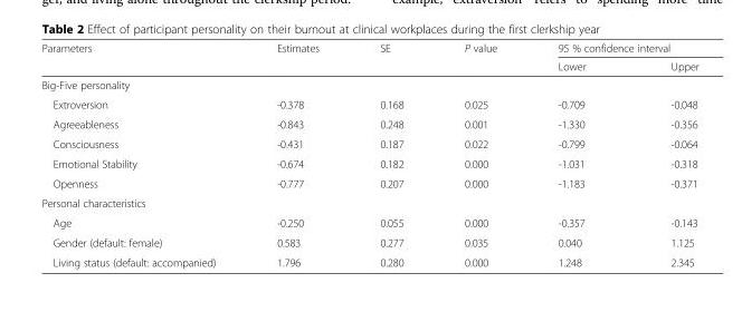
<table><thead><tr><td rowspan="2">Parameters</td><td rowspan="2">Estimates</td><td rowspan="2">SE</td><td rowspan="2">P value</td><td colspan="2">95 % confidence interval</td></tr><tr><td>Lower</td><td>Upper</td></tr></thead><tbody><tr><td colspan="6">Big-Five personality</td></tr><tr><td>Extroversion</td><td>-0.378</td><td>0.168</td><td>0.025</td><td>-0.709</td><td>-0.048</td></tr><tr><td>Agreeableness</td><td>-0.843</td><td>0.248</td><td>0.001</td><td>-1.330</td><td>-0.356</td></tr><tr><td>Consciousness</td><td>-0.431</td><td>0.187</td><td>0.022</td><td>-0.799</td><td>-0.064</td></tr><tr><td>Emotional Stability</td><td>-0.674</td><td>0.182</td><td>0.000</td><td>-1.031</td><td>-0.318</td></tr><tr><td>Openness</td><td>-0.777</td><td>0.207</td><td>0.000</td><td>-1.183</td><td>-0.371</td></tr><tr><td colspan="6">Personal characteristics</td></tr><tr><td>Age</td><td>-0.250</td><td>0.055</td><td>0.000</td><td>-0.357</td><td>-0.143</td></tr><tr><td>Gender (default: female)</td><td>0.583</td><td>0.277</td><td>0.035</td><td>0.040</td><td>1.125</td></tr><tr><td>Living status (default: accompanied)</td><td>1.796</td><td>0.280</td><td>0.000</td><td>1.248</td><td>2.345</td></tr></tbody></table>